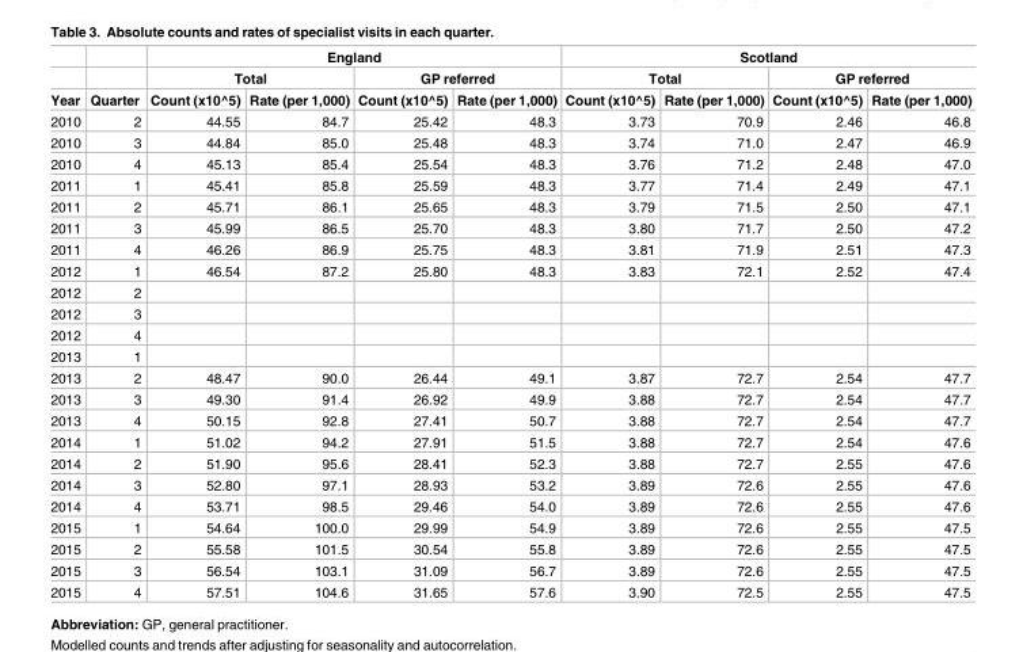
<table><thead><tr><td rowspan="3">Year</td><td rowspan="3">Quarter</td><td colspan="4">England</td><td colspan="4">Scotland</td></tr><tr><td colspan="2">Total</td><td colspan="2">GP referred</td><td colspan="2">Total</td><td colspan="2">GP referred</td></tr><tr><td>Count (x10^5)</td><td>Rate (per 1,000)</td><td>Count (x10^5)</td><td>Rate (per 1,000)</td><td>Count (x10^5)</td><td>Rate (per 1,000)</td><td>Count (x10^5)</td><td>Rate (per 1,000)</td></tr></thead><tbody><tr><td>2010</td><td>2</td><td>44.55</td><td>84.7</td><td>25.42</td><td>48.3</td><td>3.73</td><td>70.9</td><td>2.46</td><td>46.8</td></tr><tr><td>2010</td><td>3</td><td>44.84</td><td>85.0</td><td>25.48</td><td>48.3</td><td>3.74</td><td>71.0</td><td>2.47</td><td>46.9</td></tr><tr><td>2010</td><td>4</td><td>45.13</td><td>85.4</td><td>25.54</td><td>48.3</td><td>3.76</td><td>71.2</td><td>2.48</td><td>47.0</td></tr><tr><td>2011</td><td>1</td><td>45.41</td><td>85.8</td><td>25.59</td><td>48.3</td><td>3.77</td><td>71.4</td><td>2.49</td><td>47.1</td></tr><tr><td>2011</td><td>2</td><td>45.71</td><td>86.1</td><td>25.65</td><td>48.3</td><td>3.79</td><td>71.5</td><td>2.50</td><td>47.1</td></tr><tr><td>2011</td><td>3</td><td>45.99</td><td>86.5</td><td>25.70</td><td>48.3</td><td>3.80</td><td>71.7</td><td>2.50</td><td>47.2</td></tr><tr><td>2011</td><td>4</td><td>46.26</td><td>86.9</td><td>25.75</td><td>48.3</td><td>3.81</td><td>71.9</td><td>2.51</td><td>47.3</td></tr><tr><td>2012</td><td>1</td><td>46.54</td><td>87.2</td><td>25.80</td><td>48.3</td><td>3.83</td><td>72.1</td><td>2.52</td><td>47.4</td></tr><tr><td>2012</td><td>2</td><td></td><td></td><td></td><td></td><td></td><td></td><td></td><td></td></tr><tr><td>2012</td><td>3</td><td></td><td></td><td></td><td></td><td></td><td></td><td></td><td></td></tr><tr><td>2012</td><td>4</td><td></td><td></td><td></td><td></td><td></td><td></td><td></td><td></td></tr><tr><td>2013</td><td>1</td><td></td><td></td><td></td><td></td><td></td><td></td><td></td><td></td></tr><tr><td>2013</td><td>2</td><td>48.47</td><td>90.0</td><td>26.44</td><td>49.1</td><td>3.87</td><td>72.7</td><td>2.54</td><td>47.7</td></tr><tr><td>2013</td><td>3</td><td>49.30</td><td>91.4</td><td>26.92</td><td>49.9</td><td>3.88</td><td>72.7</td><td>2.54</td><td>47.7</td></tr><tr><td>2013</td><td>4</td><td>50.15</td><td>92.8</td><td>27.41</td><td>50.7</td><td>3.88</td><td>72.7</td><td>2.54</td><td>47.7</td></tr><tr><td>2014</td><td>1</td><td>51.02</td><td>94.2</td><td>27.91</td><td>51.5</td><td>3.88</td><td>72.7</td><td>2.54</td><td>47.6</td></tr><tr><td>2014</td><td>2</td><td>51.90</td><td>95.6</td><td>28.41</td><td>52.3</td><td>3.88</td><td>72.7</td><td>2.55</td><td>47.6</td></tr><tr><td>2014</td><td>3</td><td>52.80</td><td>97.1</td><td>28.93</td><td>53.2</td><td>3.89</td><td>72.6</td><td>2.55</td><td>47.6</td></tr><tr><td>2014</td><td>4</td><td>53.71</td><td>98.5</td><td>29.46</td><td>54.0</td><td>3.89</td><td>72.6</td><td>2.55</td><td>47.6</td></tr><tr><td>2015</td><td>1</td><td>54.64</td><td>100.0</td><td>29.99</td><td>54.9</td><td>3.89</td><td>72.6</td><td>2.55</td><td>47.5</td></tr><tr><td>2015</td><td>2</td><td>55.58</td><td>101.5</td><td>30.54</td><td>55.8</td><td>3.89</td><td>72.6</td><td>2.55</td><td>47.5</td></tr><tr><td>2015</td><td>3</td><td>56.54</td><td>103.1</td><td>31.09</td><td>56.7</td><td>3.89</td><td>72.6</td><td>2.55</td><td>47.5</td></tr><tr><td>2015</td><td>4</td><td>57.51</td><td>104.6</td><td>31.65</td><td>57.6</td><td>3.90</td><td>72.5</td><td>2.55</td><td>47.5</td></tr></tbody></table>